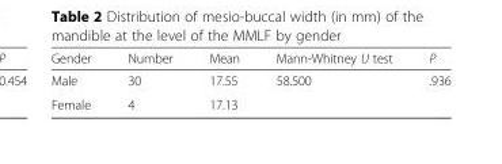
<table><thead><tr><td>Gender</td><td>Number</td><td>Mean</td><td>Mann-Whitney U test</td><td>P</td></tr></thead><tbody><tr><td>Male</td><td>30</td><td>17.55</td><td>58.500</td><td>.936</td></tr><tr><td>Female</td><td>4</td><td>17.13</td><td></td><td></td></tr></tbody></table>